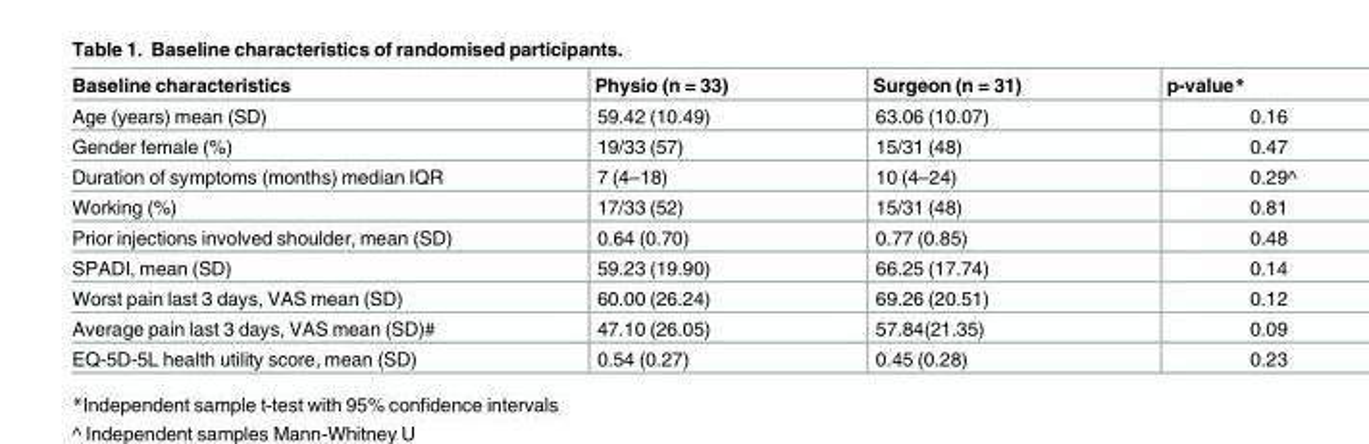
<table><thead><tr><td>Baseline characteristics</td><td>Physio (n = 33)</td><td>Surgeon (n = 31)</td><td>p-value*</td></tr></thead><tbody><tr><td>Age (years) mean (SD)</td><td>59.42 (10.49)</td><td>63.06 (10.07)</td><td>0.16</td></tr><tr><td>Gender female (%)</td><td>19/33 (57)</td><td>15/31 (48)</td><td>0.47</td></tr><tr><td>Duration of symptoms (months) median IQR</td><td>7 (4–18)</td><td>10 (4–24)</td><td>0.29^</td></tr><tr><td>Working (%)</td><td>17/33 (52)</td><td>15/31 (48)</td><td>0.81</td></tr><tr><td>Prior injections involved shoulder, mean (SD)</td><td>0.64 (0.70)</td><td>0.77 (0.85)</td><td>0.48</td></tr><tr><td>SPADI, mean (SD)</td><td>59.23 (19.90)</td><td>66.25 (17.74)</td><td>0.14</td></tr><tr><td>Worst pain last 3 days, VAS mean (SD)</td><td>60.00 (26.24)</td><td>69.26 (20.51)</td><td>0.12</td></tr><tr><td>Average pain last 3 days, VAS mean (SD)#</td><td>47.10 (26.05)</td><td>57.84(21.35)</td><td>0.09</td></tr><tr><td>EQ-5D-5L health utility score, mean (SD)</td><td>0.54 (0.27)</td><td>0.45 (0.28)</td><td>0.23</td></tr></tbody></table>